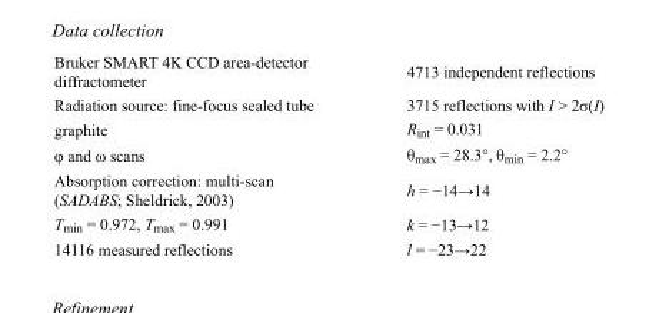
<table><tbody><tr><td>Bruker SMART 4K CCD area-detector diffractometer</td><td>4713 independent reflections</td></tr><tr><td>Radiation source: fine-focus sealed tube</td><td>3715 reflections with I &gt; 2σ(I)</td></tr><tr><td>graphite</td><td>R<sub>int</sub> = 0.031</td></tr><tr><td>φ and ω scans</td><td>θ<sub>max</sub> = 28.3°, θ<sub>min</sub> = 2.2°</td></tr><tr><td>Absorption correction: multi-scan (SADABS; Sheldrick, 2003)</td><td>h = −14→14</td></tr><tr><td>T<sub>min</sub> = 0.972, T<sub>max</sub> = 0.991</td><td>k = −13→12</td></tr><tr><td>14116 measured reflections</td><td>l = −23→22</td></tr></tbody></table>